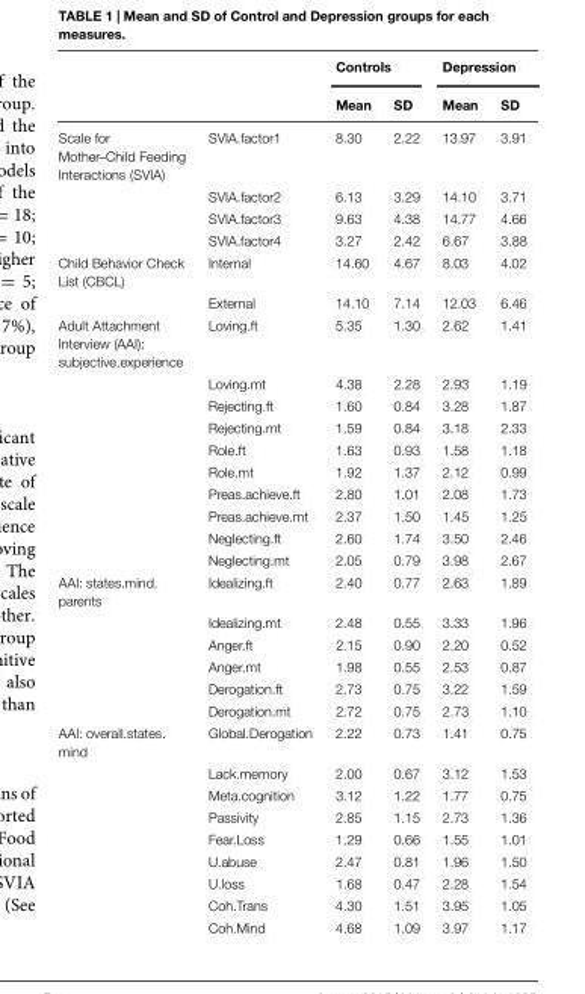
<table><thead><tr><td rowspan="2"></td><td rowspan="2"></td><td colspan="2">Controls</td><td colspan="2">Depression</td></tr><tr><td>Mean</td><td>SD</td><td>Mean</td><td>SD</td></tr></thead><tbody><tr><td rowspan="4">Scale for Mother–Child Feeding Interactions (SVIA)</td><td>SVIA.factor1</td><td>8.30</td><td>2.22</td><td>13.97</td><td>3.91</td></tr><tr><td>SVIA.factor2</td><td>6.13</td><td>3.29</td><td>14.10</td><td>3.71</td></tr><tr><td>SVIA.factor3</td><td>9.63</td><td>4.38</td><td>14.77</td><td>4.66</td></tr><tr><td>SVIA.factor4</td><td>3.27</td><td>2.42</td><td>6.67</td><td>3.88</td></tr><tr><td rowspan="2">Child Behavior Check List (CBCL)</td><td>Internal</td><td>14.60</td><td>4.67</td><td>8.03</td><td>4.02</td></tr><tr><td>External</td><td>14.10</td><td>7.14</td><td>12.03</td><td>6.46</td></tr><tr><td rowspan="10">Adult Attachment Interview (AAI): subjective.experience</td><td>Loving.ft</td><td>5.35</td><td>1.30</td><td>2.62</td><td>1.41</td></tr><tr><td>Loving.mt</td><td>4.38</td><td>2.28</td><td>2.93</td><td>1.19</td></tr><tr><td>Rejecting.ft</td><td>1.60</td><td>0.84</td><td>3.28</td><td>1.87</td></tr><tr><td>Rejecting.mt</td><td>1.59</td><td>0.84</td><td>3.18</td><td>2.33</td></tr><tr><td>Role.ft</td><td>1.63</td><td>0.93</td><td>1.58</td><td>1.18</td></tr><tr><td>Role.mt</td><td>1.92</td><td>1.37</td><td>2.12</td><td>0.99</td></tr><tr><td>Preas.achieve.ft</td><td>2.80</td><td>1.01</td><td>2.08</td><td>1.73</td></tr><tr><td>Preas.achieve.mt</td><td>2.37</td><td>1.50</td><td>1.45</td><td>1.25</td></tr><tr><td>Neglecting.ft</td><td>2.60</td><td>1.74</td><td>3.50</td><td>2.46</td></tr><tr><td>Neglecting.mt</td><td>2.05</td><td>0.79</td><td>3.98</td><td>2.67</td></tr><tr><td rowspan="6">AAI: states.mind. parents</td><td>Idealizing.ft</td><td>2.40</td><td>0.77</td><td>2.63</td><td>1.89</td></tr><tr><td>Idealizing.mt</td><td>2.48</td><td>0.55</td><td>3.33</td><td>1.96</td></tr><tr><td>Anger.ft</td><td>2.15</td><td>0.90</td><td>2.20</td><td>0.52</td></tr><tr><td>Anger.mt</td><td>1.98</td><td>0.55</td><td>2.53</td><td>0.87</td></tr><tr><td>Derogation.ft</td><td>2.73</td><td>0.75</td><td>3.22</td><td>1.59</td></tr><tr><td>Derogation.mt</td><td>2.72</td><td>0.75</td><td>2.73</td><td>1.10</td></tr><tr><td rowspan="9">AAI: overall.states. mind</td><td>Global.Derogation</td><td>2.22</td><td>0.73</td><td>1.41</td><td>0.75</td></tr><tr><td>Lack.memory</td><td>2.00</td><td>0.67</td><td>3.12</td><td>1.53</td></tr><tr><td>Meta.cognition</td><td>3.12</td><td>1.22</td><td>1.77</td><td>0.75</td></tr><tr><td>Passivity</td><td>2.85</td><td>1.15</td><td>2.73</td><td>1.36</td></tr><tr><td>Fear.Loss</td><td>1.29</td><td>0.66</td><td>1.55</td><td>1.01</td></tr><tr><td>U.abuse</td><td>2.47</td><td>0.81</td><td>1.96</td><td>1.50</td></tr><tr><td>U.loss</td><td>1.68</td><td>0.47</td><td>2.28</td><td>1.54</td></tr><tr><td>Coh.Trans</td><td>4.30</td><td>1.51</td><td>3.95</td><td>1.05</td></tr><tr><td>Coh.Mind</td><td>4.68</td><td>1.09</td><td>3.97</td><td>1.17</td></tr></tbody></table>